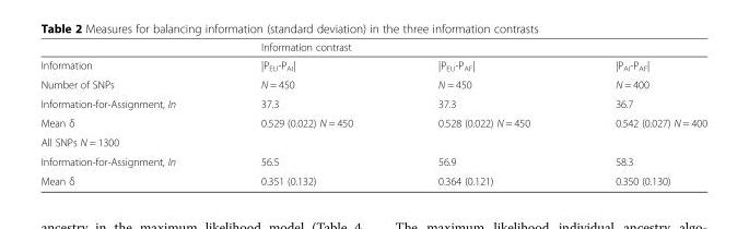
<table><thead><tr><td rowspan="2">Information</td><td colspan="3">Information contrast</td></tr><tr><td>|P<sub>EU</sub>-P<sub>AI</sub>|</td><td>|P<sub>EU</sub>-P<sub>AF</sub>|</td><td>|P<sub>AI</sub>-P<sub>AF</sub>|</td></tr></thead><tbody><tr><td>Number of SNPs</td><td>N = 450</td><td>N = 450</td><td>N = 400</td></tr><tr><td>Information-for-Assignment, In</td><td>37.3</td><td>37.3</td><td>36.7</td></tr><tr><td>Mean δ</td><td>0.529 (0.022) N = 450</td><td>0.528 (0.022) N = 450</td><td>0.542 (0.027) N = 400</td></tr><tr><td colspan="4">All SNPs N = 1300</td></tr><tr><td>Information-for-Assignment, In</td><td>56.5</td><td>56.9</td><td>58.3</td></tr><tr><td>Mean δ</td><td>0.351 (0.132)</td><td>0.364 (0.121)</td><td>0.350 (0.130)</td></tr></tbody></table>